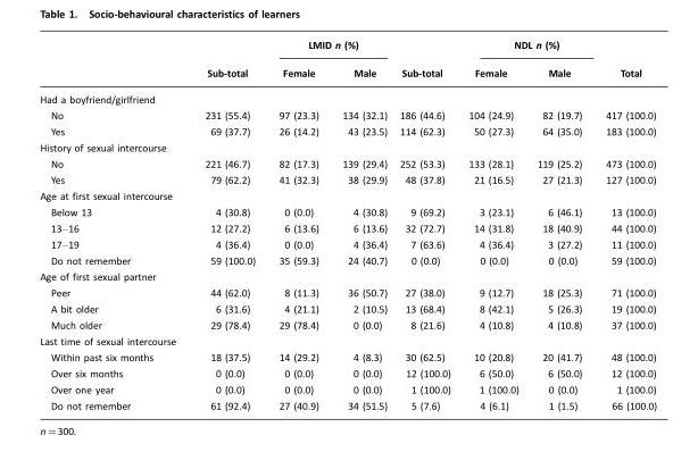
<table><thead><tr><td rowspan="2"></td><td rowspan="2">Sub-total</td><td colspan="2">LMID n (%)</td><td rowspan="2">Sub-total</td><td colspan="2">NDL n (%)</td><td rowspan="2">Total</td></tr><tr><td>Female</td><td>Male</td><td>Female</td><td>Male</td></tr></thead><tbody><tr><td colspan="8">Had a boyfriend/girlfriend</td></tr><tr><td>No</td><td>231 (55.4)</td><td>97 (23.3)</td><td>134 (32.1)</td><td>186 (44.6)</td><td>104 (24.9)</td><td>82 (19.7)</td><td>417 (100.0)</td></tr><tr><td>Yes</td><td>69 (37.7)</td><td>26 (14.2)</td><td>43 (23.5)</td><td>114 (62.3)</td><td>50 (27.3)</td><td>64 (35.0)</td><td>183 (100.0)</td></tr><tr><td colspan="8">History of sexual intercourse</td></tr><tr><td>No</td><td>221 (46.7)</td><td>82 (17.3)</td><td>139 (29.4)</td><td>252 (53.3)</td><td>133 (28.1)</td><td>119 (25.2)</td><td>473 (100.0)</td></tr><tr><td>Yes</td><td>79 (62.2)</td><td>41 (32.3)</td><td>38 (29.9)</td><td>48 (37.8)</td><td>21 (16.5)</td><td>27 (21.3)</td><td>127 (100.0)</td></tr><tr><td colspan="8">Age at first sexual intercourse</td></tr><tr><td>Below 13</td><td>4 (30.8)</td><td>0 (0.0)</td><td>4 (30.8)</td><td>9 (69.2)</td><td>3 (23.1)</td><td>6 (46.1)</td><td>13 (100.0)</td></tr><tr><td>13–16</td><td>12 (27.2)</td><td>6 (13.6)</td><td>6 (13.6)</td><td>32 (72.7)</td><td>14 (31.8)</td><td>18 (40.9)</td><td>44 (100.0)</td></tr><tr><td>17–19</td><td>4 (36.4)</td><td>0 (0.0)</td><td>4 (36.4)</td><td>7 (63.6)</td><td>4 (36.4)</td><td>3 (27.2)</td><td>11 (100.0)</td></tr><tr><td>Do not remember</td><td>59 (100.0)</td><td>35 (59.3)</td><td>24 (40.7)</td><td>0 (0.0)</td><td>0 (0.0)</td><td>0 (0.0)</td><td>59 (100.0)</td></tr><tr><td colspan="8">Age of first sexual partner</td></tr><tr><td>Peer</td><td>44 (62.0)</td><td>8 (11.3)</td><td>36 (50.7)</td><td>27 (38.0)</td><td>9 (12.7)</td><td>18 (25.3)</td><td>71 (100.0)</td></tr><tr><td>A bit older</td><td>6 (31.6)</td><td>4 (21.1)</td><td>2 (10.5)</td><td>13 (68.4)</td><td>8 (42.1)</td><td>5 (26.3)</td><td>19 (100.0)</td></tr><tr><td>Much older</td><td>29 (78.4)</td><td>29 (78.4)</td><td>0 (0.0)</td><td>8 (21.6)</td><td>4 (10.8)</td><td>4 (10.8)</td><td>37 (100.0)</td></tr><tr><td colspan="8">Last time of sexual intercourse</td></tr><tr><td>Within past six months</td><td>18 (37.5)</td><td>14 (29.2)</td><td>4 (8.3)</td><td>30 (62.5)</td><td>10 (20.8)</td><td>20 (41.7)</td><td>48 (100.0)</td></tr><tr><td>Over six months</td><td>0 (0.0)</td><td>0 (0.0)</td><td>0 (0.0)</td><td>12 (100.0)</td><td>6 (50.0)</td><td>6 (50.0)</td><td>12 (100.0)</td></tr><tr><td>Over one year</td><td>0 (0.0)</td><td>0 (0.0)</td><td>0 (0.0)</td><td>1 (100.0)</td><td>1 (100.0)</td><td>0 (0.0)</td><td>1 (100.0)</td></tr><tr><td>Do not remember</td><td>61 (92.4)</td><td>27 (40.9)</td><td>34 (51.5)</td><td>5 (7.6)</td><td>4 (6.1)</td><td>1 (1.5)</td><td>66 (100.0)</td></tr></tbody></table>